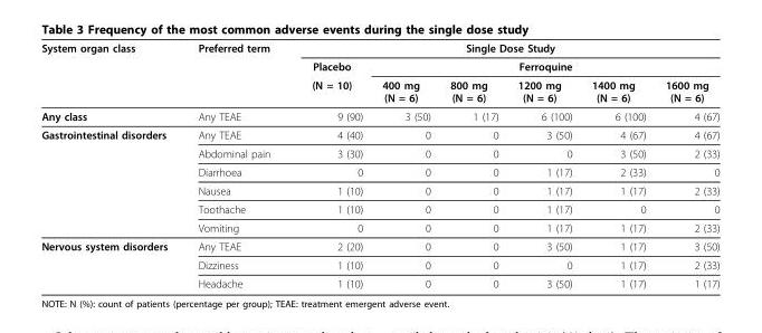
<table><thead><tr><td rowspan="3">System organ class</td><td rowspan="3">Preferred term</td><td colspan="6">Single Dose Study</td></tr><tr><td rowspan="2">Placebo (N = 10)</td><td colspan="5">Ferroquine</td></tr><tr><td>400 mg (N = 6)</td><td>800 mg (N = 6)</td><td>1200 mg (N = 6)</td><td>1400 mg (N = 6)</td><td>1600 mg (N = 6)</td></tr></thead><tbody><tr><td>Any class</td><td>Any TEAE</td><td>9 (90)</td><td>3 (50)</td><td>1 (17)</td><td>6 (100)</td><td>6 (100)</td><td>4 (67)</td></tr><tr><td rowspan="6">Gastrointestinal disorders</td><td>Any TEAE</td><td>4 (40)</td><td>0</td><td>0</td><td>3 (50)</td><td>4 (67)</td><td>4 (67)</td></tr><tr><td>Abdominal pain</td><td>3 (30)</td><td>0</td><td>0</td><td>0</td><td>3 (50)</td><td>2 (33)</td></tr><tr><td>Diarrhoea</td><td>0</td><td>0</td><td>0</td><td>1 (17)</td><td>2 (33)</td><td>0</td></tr><tr><td>Nausea</td><td>1 (10)</td><td>0</td><td>0</td><td>1 (17)</td><td>1 (17)</td><td>2 (33)</td></tr><tr><td>Toothache</td><td>1 (10)</td><td>0</td><td>0</td><td>1 (17)</td><td>0</td><td>0</td></tr><tr><td>Vomiting</td><td>0</td><td>0</td><td>0</td><td>1 (17)</td><td>1 (17)</td><td>2 (33)</td></tr><tr><td rowspan="3">Nervous system disorders</td><td>Any TEAE</td><td>2 (20)</td><td>0</td><td>0</td><td>3 (50)</td><td>1 (17)</td><td>3 (50)</td></tr><tr><td>Dizziness</td><td>1 (10)</td><td>0</td><td>0</td><td>0</td><td>1 (17)</td><td>2 (33)</td></tr><tr><td>Headache</td><td>1 (10)</td><td>0</td><td>0</td><td>3 (50)</td><td>1 (17)</td><td>1 (17)</td></tr></tbody></table>